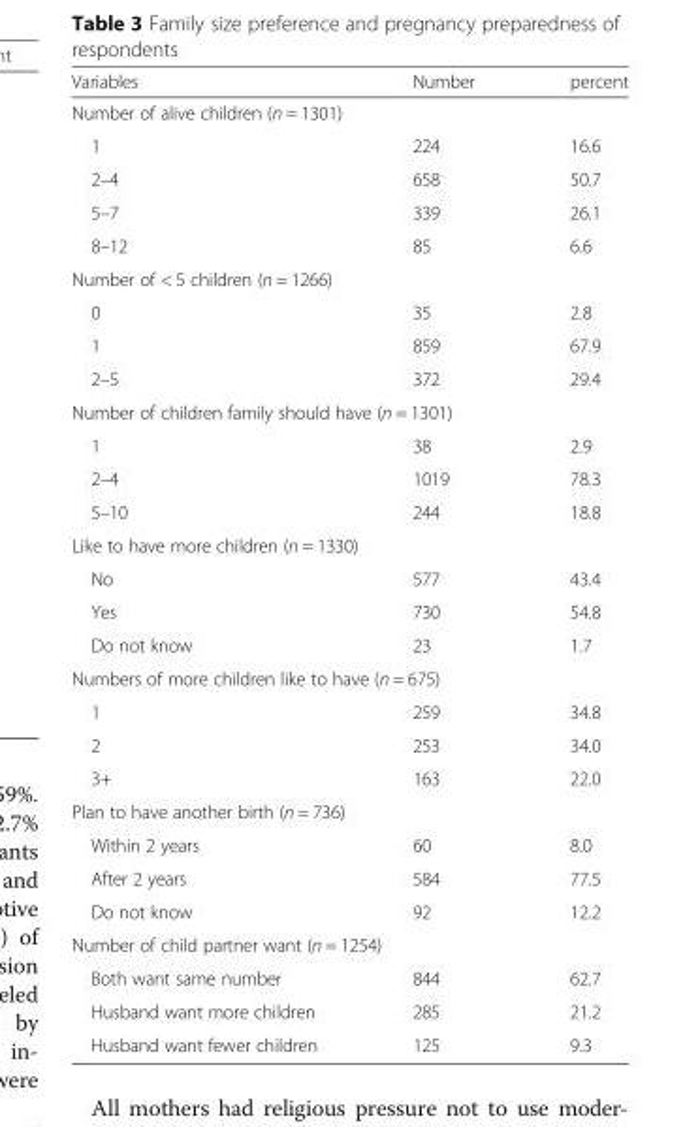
<table><thead><tr><td>Variables</td><td>Number</td><td>percent</td></tr></thead><tbody><tr><td colspan="3">Number of alive children (n = 1301)</td></tr><tr><td>1</td><td>224</td><td>16.6</td></tr><tr><td>2–4</td><td>658</td><td>50.7</td></tr><tr><td>5–7</td><td>339</td><td>26.1</td></tr><tr><td>8–12</td><td>85</td><td>6.6</td></tr><tr><td colspan="3">Number of &lt; 5 children (n = 1266)</td></tr><tr><td>0</td><td>35</td><td>2.8</td></tr><tr><td>1</td><td>859</td><td>67.9</td></tr><tr><td>2–5</td><td>372</td><td>29.4</td></tr><tr><td colspan="3">Number of children family should have (n = 1301)</td></tr><tr><td>1</td><td>38</td><td>2.9</td></tr><tr><td>2–4</td><td>1019</td><td>78.3</td></tr><tr><td>5–10</td><td>244</td><td>18.8</td></tr><tr><td colspan="3">Like to have more children (n = 1330)</td></tr><tr><td>No</td><td>577</td><td>43.4</td></tr><tr><td>Yes</td><td>730</td><td>54.8</td></tr><tr><td>Do not know</td><td>23</td><td>1.7</td></tr><tr><td colspan="3">Numbers of more children like to have (n = 675)</td></tr><tr><td>1</td><td>259</td><td>34.8</td></tr><tr><td>2</td><td>253</td><td>34.0</td></tr><tr><td>3+</td><td>163</td><td>22.0</td></tr><tr><td colspan="3">Plan to have another birth (n = 736)</td></tr><tr><td>Within 2 years</td><td>60</td><td>8.0</td></tr><tr><td>After 2 years</td><td>584</td><td>77.5</td></tr><tr><td>Do not know</td><td>92</td><td>12.2</td></tr><tr><td colspan="3">Number of child partner want (n = 1254)</td></tr><tr><td>Both want same number</td><td>844</td><td>62.7</td></tr><tr><td>Husband want more children</td><td>285</td><td>21.2</td></tr><tr><td>Husband want fewer children</td><td>125</td><td>9.3</td></tr></tbody></table>